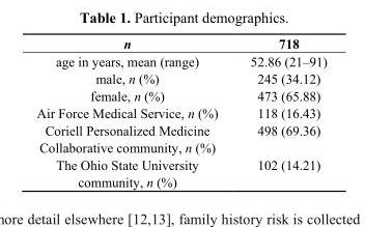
<table><thead><tr><td>n</td><td>718</td></tr></thead><tbody><tr><td>age in years, mean (range)</td><td>52.86 (21–91)</td></tr><tr><td>male, n (%)</td><td>245 (34.12)</td></tr><tr><td>female, n (%)</td><td>473 (65.88)</td></tr><tr><td>Air Force Medical Service, n (%)</td><td>118 (16.43)</td></tr><tr><td>Coriell Personalized Medicine Collaborative community, n (%)</td><td>498 (69.36)</td></tr><tr><td>The Ohio State University community, n (%)</td><td>102 (14.21)</td></tr></tbody></table>